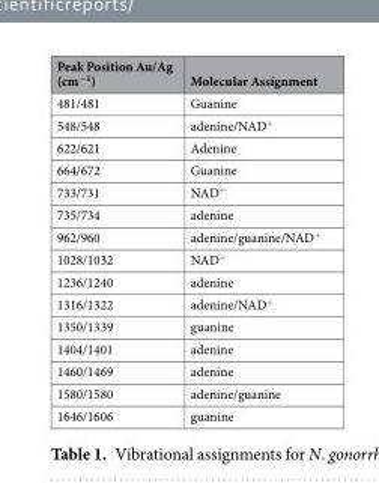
<table><thead><tr><td>Peak Position Au/Ag (cm<sup>−1</sup>)</td><td>Molecular Assignment</td></tr></thead><tbody><tr><td>481/481</td><td>Guanine</td></tr><tr><td>548/548</td><td>adenine/NAD<sup>+</sup></td></tr><tr><td>622/621</td><td>Adenine</td></tr><tr><td>664/672</td><td>Guanine</td></tr><tr><td>733/731</td><td>NAD<sup>+</sup></td></tr><tr><td>735/734</td><td>adenine</td></tr><tr><td>962/960</td><td>adenine/guanine/NAD<sup>+</sup></td></tr><tr><td>1028/1032</td><td>NAD<sup>+</sup></td></tr><tr><td>1236/1240</td><td>adenine</td></tr><tr><td>1316/1322</td><td>adenine/NAD<sup>+</sup></td></tr><tr><td>1350/1339</td><td>guanine</td></tr><tr><td>1404/1401</td><td>adenine</td></tr><tr><td>1460/1469</td><td>adenine</td></tr><tr><td>1580/1580</td><td>adenine/guanine</td></tr><tr><td>1646/1606</td><td>guanine</td></tr></tbody></table>